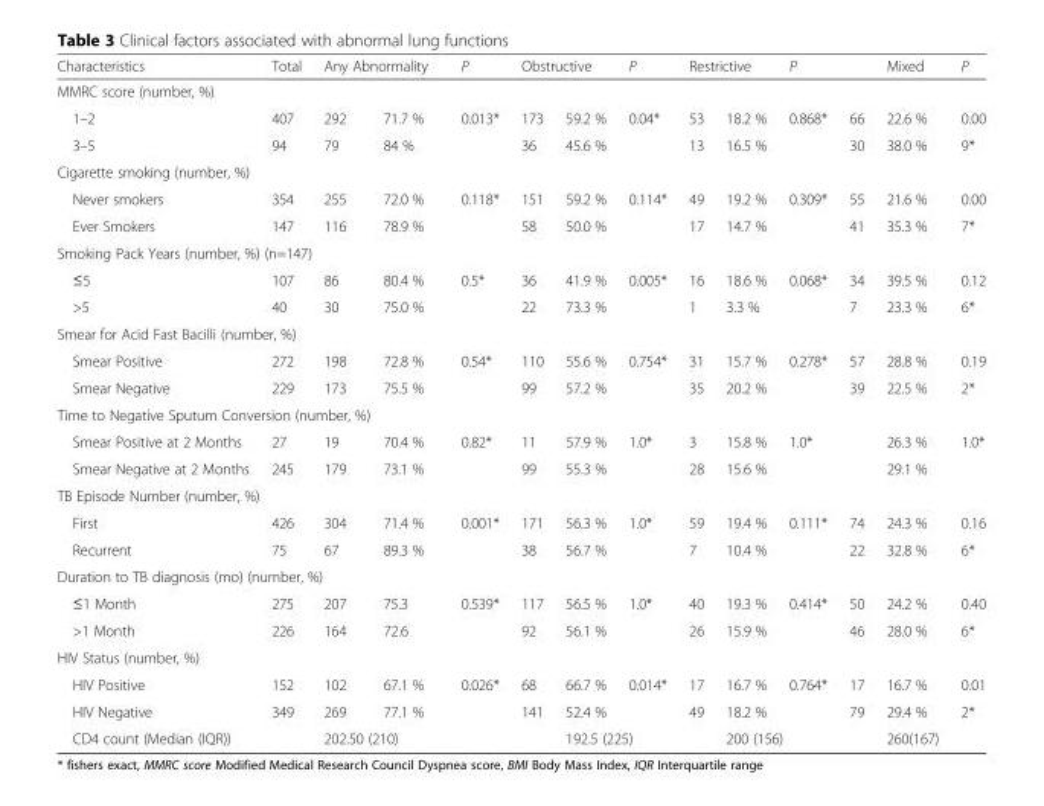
<table><thead><tr><td>Characteristics</td><td>Total</td><td colspan="2">Any Abnormality</td><td>P</td><td colspan="2">Obstructive</td><td>P</td><td colspan="2">Restrictive</td><td>P</td><td></td><td>Mixed</td><td>P</td></tr><tr><td colspan="14">MMRC score (number, %)</td></tr><tr><td>1–2</td><td>407</td><td>292</td><td>71.7 %</td><td>0.013*</td><td>173</td><td>59.2 %</td><td>0.04*</td><td>53</td><td>18.2 %</td><td>0.868*</td><td>66</td><td>22.6 %</td><td>0.00</td></tr></thead><tbody><tr><td>3–5</td><td>94</td><td>79</td><td>84 %</td><td></td><td>36</td><td>45.6 %</td><td></td><td>13</td><td>16.5 %</td><td></td><td>30</td><td>38.0 %</td><td>9*</td></tr><tr><td colspan="14">Cigarette smoking (number, %)</td></tr><tr><td>Never smokers</td><td>354</td><td>255</td><td>72.0 %</td><td>0.118*</td><td>151</td><td>59.2 %</td><td>0.114*</td><td>49</td><td>19.2 %</td><td>0.309*</td><td>55</td><td>21.6 %</td><td>0.00</td></tr><tr><td>Ever Smokers</td><td>147</td><td>116</td><td>78.9 %</td><td></td><td>58</td><td>50.0 %</td><td></td><td>17</td><td>14.7 %</td><td></td><td>41</td><td>35.3 %</td><td>7*</td></tr><tr><td colspan="14">Smoking Pack Years (number, %) (n=147)</td></tr><tr><td>≤5</td><td>107</td><td>86</td><td>80.4 %</td><td>0.5*</td><td>36</td><td>41.9 %</td><td>0.005*</td><td>16</td><td>18.6 %</td><td>0.068*</td><td>34</td><td>39.5 %</td><td>0.12</td></tr><tr><td>&gt;5</td><td>40</td><td>30</td><td>75.0 %</td><td></td><td>22</td><td>73.3 %</td><td></td><td>1</td><td>3.3 %</td><td></td><td>7</td><td>23.3 %</td><td>6*</td></tr><tr><td colspan="14">Smear for Acid Fast Bacilli (number, %)</td></tr><tr><td>Smear Positive</td><td>272</td><td>198</td><td>72.8 %</td><td>0.54*</td><td>110</td><td>55.6 %</td><td>0.754*</td><td>31</td><td>15.7 %</td><td>0.278*</td><td>57</td><td>28.8 %</td><td>0.19</td></tr><tr><td>Smear Negative</td><td>229</td><td>173</td><td>75.5 %</td><td></td><td>99</td><td>57.2 %</td><td></td><td>35</td><td>20.2 %</td><td></td><td>39</td><td>22.5 %</td><td>2*</td></tr><tr><td colspan="14">Time to Negative Sputum Conversion (number, %)</td></tr><tr><td>Smear Positive at 2 Months</td><td>27</td><td>19</td><td>70.4 %</td><td>0.82*</td><td>11</td><td>57.9 %</td><td>1.0*</td><td>3</td><td>15.8 %</td><td>1.0*</td><td></td><td>26.3 %</td><td>1.0*</td></tr><tr><td>Smear Negative at 2 Months</td><td>245</td><td>179</td><td>73.1 %</td><td></td><td>99</td><td>55.3 %</td><td></td><td>28</td><td>15.6 %</td><td></td><td></td><td>29.1 %</td><td></td></tr><tr><td colspan="14">TB Episode Number (number, %)</td></tr><tr><td>First</td><td>426</td><td>304</td><td>71.4 %</td><td>0.001*</td><td>171</td><td>56.3 %</td><td>1.0*</td><td>59</td><td>19.4 %</td><td>0.111*</td><td>74</td><td>24.3 %</td><td>0.16</td></tr><tr><td>Recurrent</td><td>75</td><td>67</td><td>89.3 %</td><td></td><td>38</td><td>56.7 %</td><td></td><td>7</td><td>10.4 %</td><td></td><td>22</td><td>32.8 %</td><td>6*</td></tr><tr><td colspan="14">Duration to TB diagnosis (mo) (number, %)</td></tr><tr><td>≤1 Month</td><td>275</td><td>207</td><td>75.3</td><td>0.539*</td><td>117</td><td>56.5 %</td><td>1.0*</td><td>40</td><td>19.3 %</td><td>0.414*</td><td>50</td><td>24.2 %</td><td>0.40</td></tr><tr><td>&gt;1 Month</td><td>226</td><td>164</td><td>72.6</td><td></td><td>92</td><td>56.1 %</td><td></td><td>26</td><td>15.9 %</td><td></td><td>46</td><td>28.0 %</td><td>6*</td></tr><tr><td colspan="14">HIV Status (number, %)</td></tr><tr><td>HIV Positive</td><td>152</td><td>102</td><td>67.1 %</td><td>0.026*</td><td>68</td><td>66.7 %</td><td>0.014*</td><td>17</td><td>16.7 %</td><td>0.764*</td><td>17</td><td>16.7 %</td><td>0.01</td></tr><tr><td>HIV Negative</td><td>349</td><td>269</td><td>77.1 %</td><td></td><td>141</td><td>52.4 %</td><td></td><td>49</td><td>18.2 %</td><td></td><td>79</td><td>29.4 %</td><td>2*</td></tr><tr><td>CD4 count (Median (IQR))</td><td></td><td colspan="2">202.50 (210)</td><td></td><td></td><td colspan="2">192.5 (225)</td><td></td><td colspan="2">200 (156)</td><td></td><td>260(167)</td><td></td></tr></tbody></table>